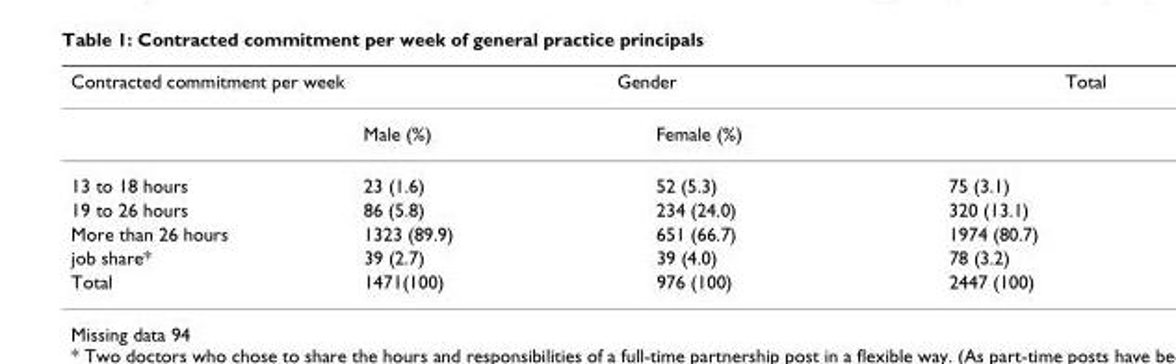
<table><thead><tr><td rowspan="2">Contracted commitment per week</td><td colspan="2">Gender</td><td rowspan="2">Total</td></tr><tr><td>Male (%)</td><td>Female (%)</td></tr></thead><tbody><tr><td>13 to 18 hours</td><td>23 (1.6)</td><td>52 (5.3)</td><td>75 (3.1)</td></tr><tr><td>19 to 26 hours</td><td>86 (5.8)</td><td>234 (24.0)</td><td>320 (13.1)</td></tr><tr><td>More than 26 hours</td><td>1323 (89.9)</td><td>651 (66.7)</td><td>1974 (80.7)</td></tr><tr><td>job share*</td><td>39 (2.7)</td><td>39 (4.0)</td><td>78 (3.2)</td></tr><tr><td>Total</td><td>1471(100)</td><td>976 (100)</td><td>2447 (100)</td></tr></tbody></table>